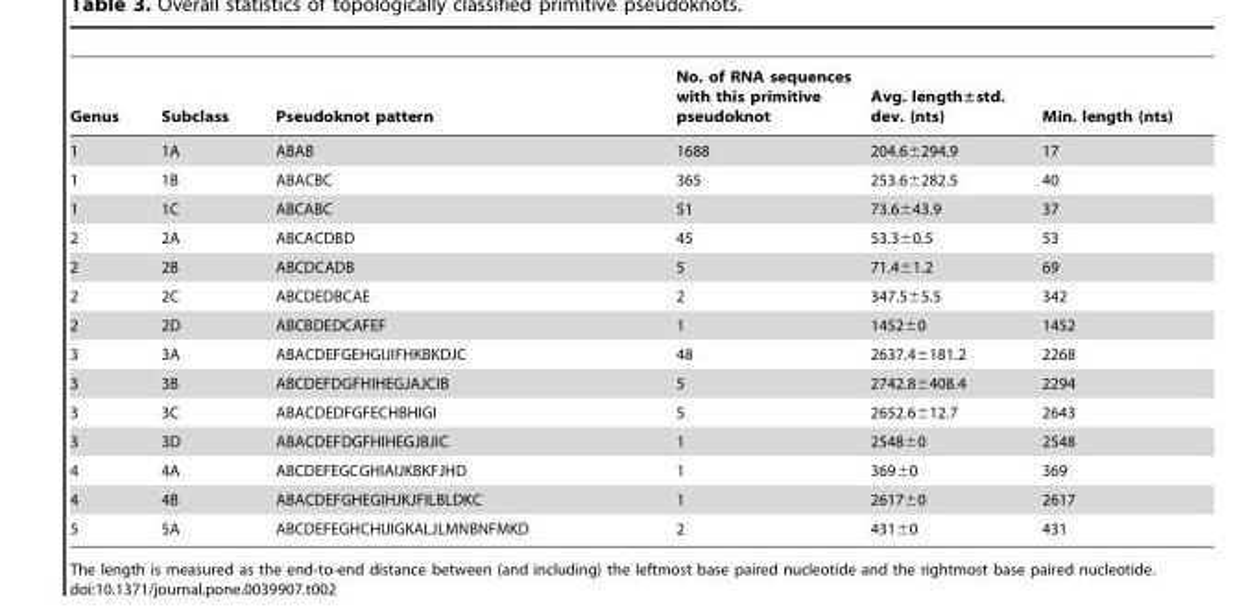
<table><thead><tr><td>Genus</td><td>Subclass</td><td>Pseudoknot pattern</td><td>No. of RNA sequences with this primitive pseudoknot</td><td>Avg. length±std. dev. (nts)</td><td>Min. length (nts)</td></tr></thead><tbody><tr><td>1</td><td>1A</td><td>ABAB</td><td>1688</td><td>204.6±294.9</td><td>17</td></tr><tr><td>1</td><td>1B</td><td>ABACBC</td><td>365</td><td>253.6±282.5</td><td>40</td></tr><tr><td>1</td><td>1C</td><td>ABCABC</td><td>51</td><td>73.6±43.9</td><td>37</td></tr><tr><td>2</td><td>2A</td><td>ABCACDBD</td><td>45</td><td>53.3±0.5</td><td>53</td></tr><tr><td>2</td><td>2B</td><td>ABCDCADB</td><td>5</td><td>71.4±1.2</td><td>69</td></tr><tr><td>2</td><td>2C</td><td>ABCDEDBCAE</td><td>2</td><td>347.5±5.5</td><td>342</td></tr><tr><td>2</td><td>2D</td><td>ABCBDEDCAFEF</td><td>1</td><td>1452±0</td><td>1452</td></tr><tr><td>3</td><td>3A</td><td>ABACDEFGEHGIJIFHKBKDJC</td><td>48</td><td>2637.4±181.2</td><td>2268</td></tr><tr><td>3</td><td>3B</td><td>ABCDEFDGFHIHEGJAJCIB</td><td>5</td><td>2742.8±408.4</td><td>2294</td></tr><tr><td>3</td><td>3C</td><td>ABACDEDFGFECHBHIGI</td><td>5</td><td>2652.6±12.7</td><td>2643</td></tr><tr><td>3</td><td>3D</td><td>ABACDEFDGFHIHEGJBJIC</td><td>1</td><td>2548±0</td><td>2548</td></tr><tr><td>4</td><td>4A</td><td>ABCDEFEGCGHIAIJKBKFJHD</td><td>1</td><td>369±0</td><td>369</td></tr><tr><td>4</td><td>4B</td><td>ABACDEFGHEGIHJKJFILBLDKC</td><td>1</td><td>2617±0</td><td>2617</td></tr><tr><td>5</td><td>5A</td><td>ABCDEFEGHCHIJIGKALJLMNBNFMKD</td><td>2</td><td>431±0</td><td>431</td></tr></tbody></table>